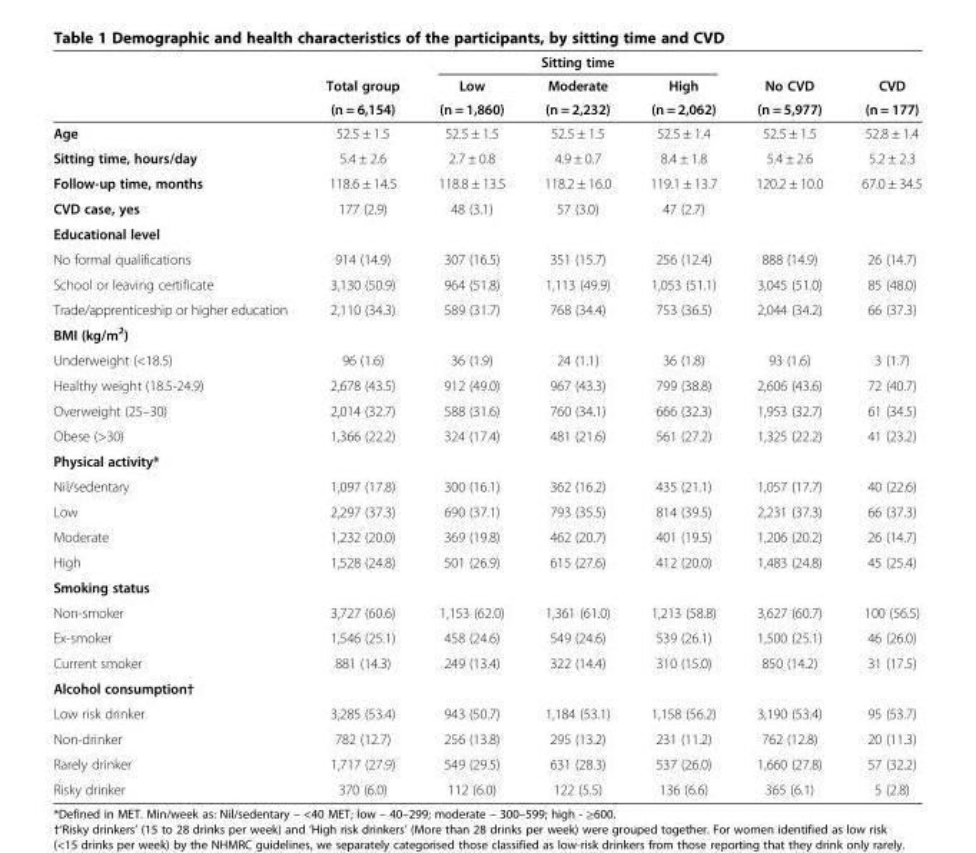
<table><thead><tr><td rowspan="3"></td><td rowspan="3">Total group (n = 6,154)</td><td colspan="3">Sitting time</td><td rowspan="3">No CVD (n = 5,977)</td><td rowspan="3">CVD (n = 177)</td></tr><tr><td rowspan="2">Low (n = 1,860)</td><td rowspan="2">Moderate (n = 2,232)</td><td rowspan="2">High (n = 2,062)</td></tr><tr></tr></thead><tbody><tr><td>Age</td><td>52.5 ± 1.5</td><td>52.5 ± 1.5</td><td>52.5 ± 1.5</td><td>52.5 ± 1.4</td><td>52.5 ± 1.5</td><td>52.8 ± 1.4</td></tr><tr><td>Sitting time, hours/day</td><td>5.4 ± 2.6</td><td>2.7 ± 0.8</td><td>4.9 ± 0.7</td><td>8.4 ± 1.8</td><td>5.4 ± 2.6</td><td>5.2 ± 2.3</td></tr><tr><td>Follow-up time, months</td><td>118.6 ± 14.5</td><td>118.8 ± 13.5</td><td>118.2 ± 16.0</td><td>119.1 ± 13.7</td><td>120.2 ± 10.0</td><td>67.0 ± 34.5</td></tr><tr><td>CVD case, yes</td><td>177 (2.9)</td><td>48 (3.1)</td><td>57 (3.0)</td><td>47 (2.7)</td><td></td><td></td></tr><tr><td colspan="7">Educational level</td></tr><tr><td>No formal qualifications</td><td>914 (14.9)</td><td>307 (16.5)</td><td>351 (15.7)</td><td>256 (12.4)</td><td>888 (14.9)</td><td>26 (14.7)</td></tr><tr><td>School or leaving certificate</td><td>3,130 (50.9)</td><td>964 (51.8)</td><td>1,113 (49.9)</td><td>1,053 (51.1)</td><td>3,045 (51.0)</td><td>85 (48.0)</td></tr><tr><td>Trade/apprenticeship or higher education</td><td>2,110 (34.3)</td><td>589 (31.7)</td><td>768 (34.4)</td><td>753 (36.5)</td><td>2,044 (34.2)</td><td>66 (37.3)</td></tr><tr><td colspan="7">BMI (kg/m<sup>2</sup>)</td></tr><tr><td>Underweight (&lt;18.5)</td><td>96 (1.6)</td><td>36 (1.9)</td><td>24 (1.1)</td><td>36 (1.8)</td><td>93 (1.6)</td><td>3 (1.7)</td></tr><tr><td>Healthy weight (18.5-24.9)</td><td>2,678 (43.5)</td><td>912 (49.0)</td><td>967 (43.3)</td><td>799 (38.8)</td><td>2,606 (43.6)</td><td>72 (40.7)</td></tr><tr><td>Overweight (25–30)</td><td>2,014 (32.7)</td><td>588 (31.6)</td><td>760 (34.1)</td><td>666 (32.3)</td><td>1,953 (32.7)</td><td>61 (34.5)</td></tr><tr><td>Obese (&gt;30)</td><td>1,366 (22.2)</td><td>324 (17.4)</td><td>481 (21.6)</td><td>561 (27.2)</td><td>1,325 (22.2)</td><td>41 (23.2)</td></tr><tr><td colspan="7">Physical activity*</td></tr><tr><td>Nil/sedentary</td><td>1,097 (17.8)</td><td>300 (16.1)</td><td>362 (16.2)</td><td>435 (21.1)</td><td>1,057 (17.7)</td><td>40 (22.6)</td></tr><tr><td>Low</td><td>2,297 (37.3)</td><td>690 (37.1)</td><td>793 (35.5)</td><td>814 (39.5)</td><td>2,231 (37.3)</td><td>66 (37.3)</td></tr><tr><td>Moderate</td><td>1,232 (20.0)</td><td>369 (19.8)</td><td>462 (20.7)</td><td>401 (19.5)</td><td>1,206 (20.2)</td><td>26 (14.7)</td></tr><tr><td>High</td><td>1,528 (24.8)</td><td>501 (26.9)</td><td>615 (27.6)</td><td>412 (20.0)</td><td>1,483 (24.8)</td><td>45 (25.4)</td></tr><tr><td colspan="7">Smoking status</td></tr><tr><td>Non-smoker</td><td>3,727 (60.6)</td><td>1,153 (62.0)</td><td>1,361 (61.0)</td><td>1,213 (58.8)</td><td>3,627 (60.7)</td><td>100 (56.5)</td></tr><tr><td>Ex-smoker</td><td>1,546 (25.1)</td><td>458 (24.6)</td><td>549 (24.6)</td><td>539 (26.1)</td><td>1,500 (25.1)</td><td>46 (26.0)</td></tr><tr><td>Current smoker</td><td>881 (14.3)</td><td>249 (13.4)</td><td>322 (14.4)</td><td>310 (15.0)</td><td>850 (14.2)</td><td>31 (17.5)</td></tr><tr><td colspan="7">Alcohol consumption†</td></tr><tr><td>Low risk drinker</td><td>3,285 (53.4)</td><td>943 (50.7)</td><td>1,184 (53.1)</td><td>1,158 (56.2)</td><td>3,190 (53.4)</td><td>95 (53.7)</td></tr><tr><td>Non-drinker</td><td>782 (12.7)</td><td>256 (13.8)</td><td>295 (13.2)</td><td>231 (11.2)</td><td>762 (12.8)</td><td>20 (11.3)</td></tr><tr><td>Rarely drinker</td><td>1,717 (27.9)</td><td>549 (29.5)</td><td>631 (28.3)</td><td>537 (26.0)</td><td>1,660 (27.8)</td><td>57 (32.2)</td></tr><tr><td>Risky drinker</td><td>370 (6.0)</td><td>112 (6.0)</td><td>122 (5.5)</td><td>136 (6.6)</td><td>365 (6.1)</td><td>5 (2.8)</td></tr></tbody></table>